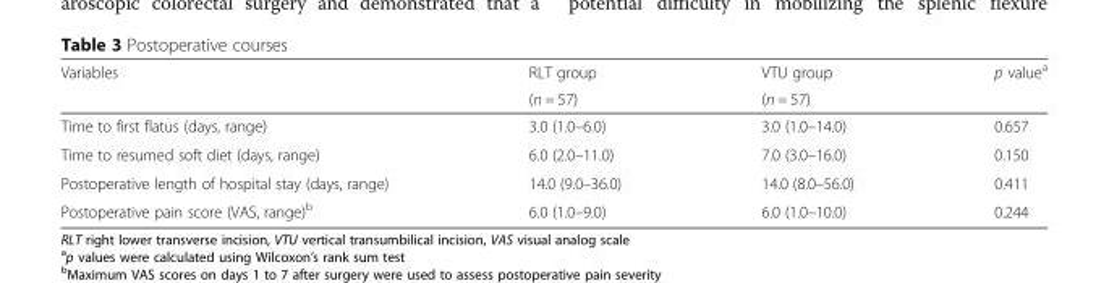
<table><thead><tr><td rowspan="2">Variables</td><td rowspan="2">RLT group (n = 57)</td><td rowspan="2">VTU group (n = 57)</td><td rowspan="2">p value<sup>a</sup></td></tr><tr></tr></thead><tbody><tr><td>Time to first flatus (days, range)</td><td>3.0 (1.0–6.0)</td><td>3.0 (1.0–14.0)</td><td>0.657</td></tr><tr><td>Time to resumed soft diet (days, range)</td><td>6.0 (2.0–11.0)</td><td>7.0 (3.0–16.0)</td><td>0.150</td></tr><tr><td>Postoperative length of hospital stay (days, range)</td><td>14.0 (9.0–36.0)</td><td>14.0 (8.0–56.0)</td><td>0.411</td></tr><tr><td>Postoperative pain score (VAS, range)<sup>b</sup></td><td>6.0 (1.0–9.0)</td><td>6.0 (1.0–10.0)</td><td>0.244</td></tr></tbody></table>